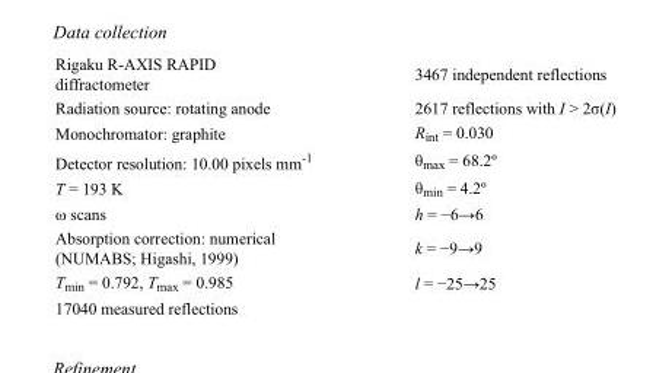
<table><tbody><tr><td>Rigaku R-AXIS RAPID diffractometer</td><td>3467 independent reflections</td></tr><tr><td>Radiation source: rotating anode</td><td>2617 reflections with I &gt; 2σ(I)</td></tr><tr><td>Monochromator: graphite</td><td>R<sub>int</sub> = 0.030</td></tr><tr><td>Detector resolution: 10.00 pixels mm<sup>-1</sup></td><td>θ<sub>max</sub> = 68.2º</td></tr><tr><td>T = 193 K</td><td>θ<sub>min</sub> = 4.2º</td></tr><tr><td>ω scans</td><td>h = −6→6</td></tr><tr><td>Absorption correction: numerical (NUMABS; Higashi, 1999)</td><td>k = −9→9</td></tr><tr><td>T<sub>min</sub> = 0.792, T<sub>max</sub> = 0.985</td><td>l = −25→25</td></tr><tr><td>17040 measured reflections</td><td></td></tr></tbody></table>